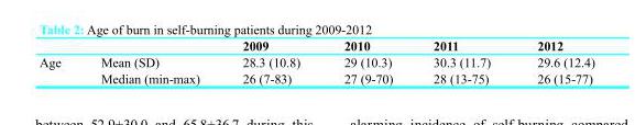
<table><thead><tr><td></td><td></td><td>2009</td><td>2010</td><td>2011</td><td>2012</td></tr></thead><tbody><tr><td rowspan="2">Age</td><td>Mean (SD)</td><td>28.3 (10.8)</td><td>29 (10.3)</td><td>30.3 (11.7)</td><td>29.6 (12.4)</td></tr><tr><td>Median (min-max)</td><td>26 (7-83)</td><td>27 (9-70)</td><td>28 (13-75)</td><td>26 (15-77)</td></tr></tbody></table>